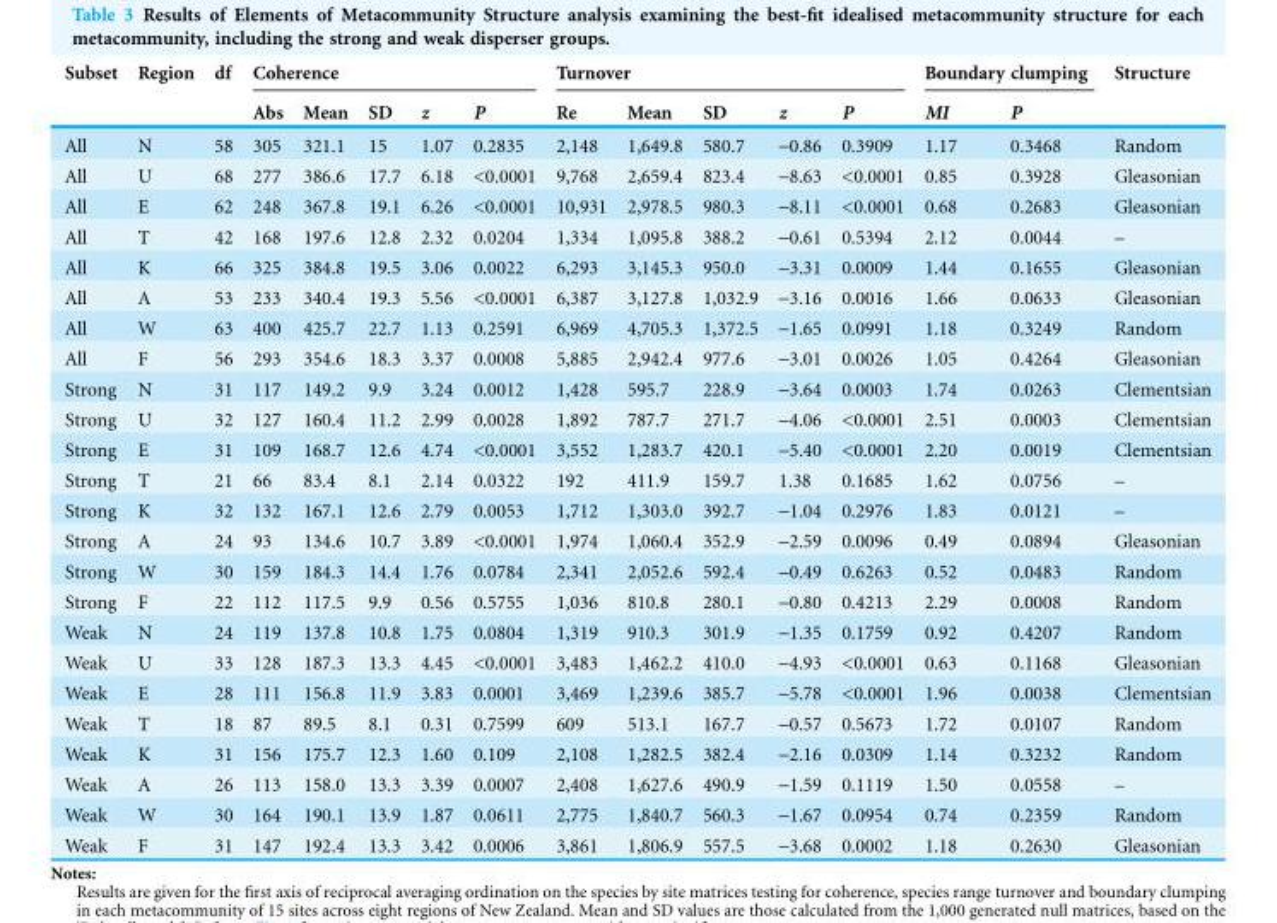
<table><thead><tr><td rowspan="2">Subset</td><td rowspan="2">Region</td><td rowspan="2">df</td><td colspan="5">Coherence</td><td colspan="5">Turnover</td><td colspan="2">Boundary clumping</td><td rowspan="2">Structure</td></tr><tr><td>Abs</td><td>Mean</td><td>SD</td><td>z</td><td>P</td><td>Re</td><td>Mean</td><td>SD</td><td>z</td><td>P</td><td>MI</td><td>P</td></tr></thead><tbody><tr><td>All</td><td>N</td><td>58</td><td>305</td><td>321.1</td><td>15</td><td>1.07</td><td>0.2835</td><td>2,148</td><td>1,649.8</td><td>580.7</td><td>-0.86</td><td>0.3909</td><td>1.17</td><td>0.3468</td><td>Random</td></tr><tr><td>All</td><td>U</td><td>68</td><td>277</td><td>386.6</td><td>17.7</td><td>6.18</td><td>&lt;0.0001</td><td>9,768</td><td>2,659.4</td><td>823.4</td><td>-8.63</td><td>&lt;0.0001</td><td>0.85</td><td>0.3928</td><td>Gleasonian</td></tr><tr><td>All</td><td>E</td><td>62</td><td>248</td><td>367.8</td><td>19.1</td><td>6.26</td><td>&lt;0.0001</td><td>10,931</td><td>2,978.5</td><td>980.3</td><td>-8.11</td><td>&lt;0.0001</td><td>0.68</td><td>0.2683</td><td>Gleasonian</td></tr><tr><td>All</td><td>T</td><td>42</td><td>168</td><td>197.6</td><td>12.8</td><td>2.32</td><td>0.0204</td><td>1,334</td><td>1,095.8</td><td>388.2</td><td>-0.61</td><td>0.5394</td><td>2.12</td><td>0.0044</td><td>–</td></tr><tr><td>All</td><td>K</td><td>66</td><td>325</td><td>384.8</td><td>19.5</td><td>3.06</td><td>0.0022</td><td>6,293</td><td>3,145.3</td><td>950.0</td><td>-3.31</td><td>0.0009</td><td>1.44</td><td>0.1655</td><td>Gleasonian</td></tr><tr><td>All</td><td>A</td><td>53</td><td>233</td><td>340.4</td><td>19.3</td><td>5.56</td><td>&lt;0.0001</td><td>6,387</td><td>3,127.8</td><td>1,032.9</td><td>-3.16</td><td>0.0016</td><td>1.66</td><td>0.0633</td><td>Gleasonian</td></tr><tr><td>All</td><td>W</td><td>63</td><td>400</td><td>425.7</td><td>22.7</td><td>1.13</td><td>0.2591</td><td>6,969</td><td>4,705.3</td><td>1,372.5</td><td>-1.65</td><td>0.0991</td><td>1.18</td><td>0.3249</td><td>Random</td></tr><tr><td>All</td><td>F</td><td>56</td><td>293</td><td>354.6</td><td>18.3</td><td>3.37</td><td>0.0008</td><td>5,885</td><td>2,942.4</td><td>977.6</td><td>-3.01</td><td>0.0026</td><td>1.05</td><td>0.4264</td><td>Gleasonian</td></tr><tr><td>Strong</td><td>N</td><td>31</td><td>117</td><td>149.2</td><td>9.9</td><td>3.24</td><td>0.0012</td><td>1,428</td><td>595.7</td><td>228.9</td><td>-3.64</td><td>0.0003</td><td>1.74</td><td>0.0263</td><td>Clementsian</td></tr><tr><td>Strong</td><td>U</td><td>32</td><td>127</td><td>160.4</td><td>11.2</td><td>2.99</td><td>0.0028</td><td>1,892</td><td>787.7</td><td>271.7</td><td>-4.06</td><td>&lt;0.0001</td><td>2.51</td><td>0.0003</td><td>Clementsian</td></tr><tr><td>Strong</td><td>E</td><td>31</td><td>109</td><td>168.7</td><td>12.6</td><td>4.74</td><td>&lt;0.0001</td><td>3,552</td><td>1,283.7</td><td>420.1</td><td>-5.40</td><td>&lt;0.0001</td><td>2.20</td><td>0.0019</td><td>Clementsian</td></tr><tr><td>Strong</td><td>T</td><td>21</td><td>66</td><td>83.4</td><td>8.1</td><td>2.14</td><td>0.0322</td><td>192</td><td>411.9</td><td>159.7</td><td>1.38</td><td>0.1685</td><td>1.62</td><td>0.0756</td><td>–</td></tr><tr><td>Strong</td><td>K</td><td>32</td><td>132</td><td>167.1</td><td>12.6</td><td>2.79</td><td>0.0053</td><td>1,712</td><td>1,303.0</td><td>392.7</td><td>-1.04</td><td>0.2976</td><td>1.83</td><td>0.0121</td><td>–</td></tr><tr><td>Strong</td><td>A</td><td>24</td><td>93</td><td>134.6</td><td>10.7</td><td>3.89</td><td>&lt;0.0001</td><td>1,974</td><td>1,060.4</td><td>352.9</td><td>-2.59</td><td>0.0096</td><td>0.49</td><td>0.0894</td><td>Gleasonian</td></tr><tr><td>Strong</td><td>W</td><td>30</td><td>159</td><td>184.3</td><td>14.4</td><td>1.76</td><td>0.0784</td><td>2,341</td><td>2,052.6</td><td>592.4</td><td>-0.49</td><td>0.6263</td><td>0.52</td><td>0.0483</td><td>Random</td></tr><tr><td>Strong</td><td>F</td><td>22</td><td>112</td><td>117.5</td><td>9.9</td><td>0.56</td><td>0.5755</td><td>1,036</td><td>810.8</td><td>280.1</td><td>-0.80</td><td>0.4213</td><td>2.29</td><td>0.0008</td><td>Random</td></tr><tr><td>Weak</td><td>N</td><td>24</td><td>119</td><td>137.8</td><td>10.8</td><td>1.75</td><td>0.0804</td><td>1,319</td><td>910.3</td><td>301.9</td><td>-1.35</td><td>0.1759</td><td>0.92</td><td>0.4207</td><td>Random</td></tr><tr><td>Weak</td><td>U</td><td>33</td><td>128</td><td>187.3</td><td>13.3</td><td>4.45</td><td>&lt;0.0001</td><td>3,483</td><td>1,462.2</td><td>410.0</td><td>-4.93</td><td>&lt;0.0001</td><td>0.63</td><td>0.1168</td><td>Gleasonian</td></tr><tr><td>Weak</td><td>E</td><td>28</td><td>111</td><td>156.8</td><td>11.9</td><td>3.83</td><td>0.0001</td><td>3,469</td><td>1,239.6</td><td>385.7</td><td>-5.78</td><td>&lt;0.0001</td><td>1.96</td><td>0.0038</td><td>Clementsian</td></tr><tr><td>Weak</td><td>T</td><td>18</td><td>87</td><td>89.5</td><td>8.1</td><td>0.31</td><td>0.7599</td><td>609</td><td>513.1</td><td>167.7</td><td>-0.57</td><td>0.5673</td><td>1.72</td><td>0.0107</td><td>Random</td></tr><tr><td>Weak</td><td>K</td><td>31</td><td>156</td><td>175.7</td><td>12.3</td><td>1.60</td><td>0.109</td><td>2,108</td><td>1,282.5</td><td>382.4</td><td>-2.16</td><td>0.0309</td><td>1.14</td><td>0.3232</td><td>Random</td></tr><tr><td>Weak</td><td>A</td><td>26</td><td>113</td><td>158.0</td><td>13.3</td><td>3.39</td><td>0.0007</td><td>2,408</td><td>1,627.6</td><td>490.9</td><td>-1.59</td><td>0.1119</td><td>1.50</td><td>0.0558</td><td>–</td></tr><tr><td>Weak</td><td>W</td><td>30</td><td>164</td><td>190.1</td><td>13.9</td><td>1.87</td><td>0.0611</td><td>2,775</td><td>1,840.7</td><td>560.3</td><td>-1.67</td><td>0.0954</td><td>0.74</td><td>0.2359</td><td>Random</td></tr><tr><td>Weak</td><td>F</td><td>31</td><td>147</td><td>192.4</td><td>13.3</td><td>3.42</td><td>0.0006</td><td>3,861</td><td>1,806.9</td><td>557.5</td><td>-3.68</td><td>0.0002</td><td>1.18</td><td>0.2630</td><td>Gleasonian</td></tr></tbody></table>